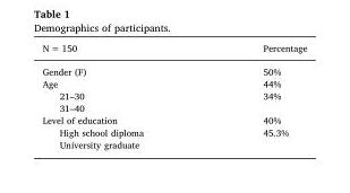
<table><thead><tr><td>N = 150</td><td>Percentage</td></tr></thead><tbody><tr><td>Gender (F)</td><td>50%</td></tr><tr><td>Age 21–30 31–40</td><td>44% 34%</td></tr><tr><td>Level of education High school diploma University graduate</td><td>40% 45.3%</td></tr></tbody></table>